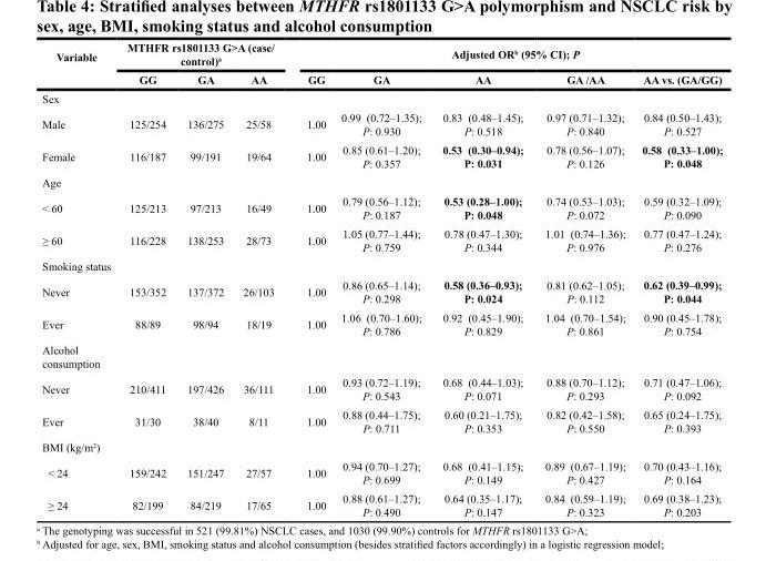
<table><thead><tr><td rowspan="2">Variable</td><td colspan="3">MTHFR rs1801133 G&gt;A (case/ control)<sup>a</sup></td><td colspan="5">Adjusted OR<sup>b</sup> (95% CI); P</td></tr><tr><td>GG</td><td>GA</td><td>AA</td><td>GG</td><td>GA</td><td>AA</td><td>GA /AA</td><td>AA vs. (GA/GG)</td></tr></thead><tbody><tr><td colspan="9">Sex</td></tr><tr><td>Male</td><td>125/254</td><td>136/275</td><td>25/58</td><td>1.00</td><td>0.99 (0.72–1.35); P: 0.930</td><td>0.83 (0.48–1.45); P: 0.518</td><td>0.97 (0.71–1.32); P: 0.840</td><td>0.84 (0.50–1.43); P: 0.527</td></tr><tr><td>Female</td><td>116/187</td><td>99/191</td><td>19/64</td><td>1.00</td><td>0.85 (0.61–1.20); P: 0.357</td><td>0.53 (0.30–0.94); P: 0.031</td><td>0.78 (0.56–1.07); P: 0.126</td><td>0.58 (0.33–1.00); P: 0.048</td></tr><tr><td colspan="9">Age</td></tr><tr><td>&lt; 60</td><td>125/213</td><td>97/213</td><td>16/49</td><td>1.00</td><td>0.79 (0.56–1.12); P: 0.187</td><td>0.53 (0.28–1.00); P: 0.048</td><td>0.74 (0.53–1.03); P: 0.072</td><td>0.59 (0.32–1.09); P: 0.090</td></tr><tr><td>≥ 60</td><td>116/228</td><td>138/253</td><td>28/73</td><td>1.00</td><td>1.05 (0.77–1.44); P: 0.759</td><td>0.78 (0.47–1.30); P: 0.344</td><td>1.01 (0.74–1.36); P: 0.976</td><td>0.77 (0.47–1.24); P: 0.276</td></tr><tr><td colspan="9">Smoking status</td></tr><tr><td>Never</td><td>153/352</td><td>137/372</td><td>26/103</td><td>1.00</td><td>0.86 (0.65–1.14); P: 0.298</td><td>0.58 (0.36–0.93); P: 0.024</td><td>0.81 (0.62–1.05); P: 0.112</td><td>0.62 (0.39–0.99); P: 0.044</td></tr><tr><td>Ever</td><td>88/89</td><td>98/94</td><td>18/19</td><td>1.00</td><td>1.06 (0.70–1.60); P: 0.786</td><td>0.92 (0.45–1.90); P: 0.829</td><td>1.04 (0.70–1.54); P: 0.861</td><td>0.90 (0.45–1.78); P: 0.754</td></tr><tr><td colspan="9">Alcohol consumption</td></tr><tr><td>Never</td><td>210/411</td><td>197/426</td><td>36/111</td><td>1.00</td><td>0.93 (0.72–1.19); P: 0.543</td><td>0.68 (0.44–1.03); P: 0.071</td><td>0.88 (0.70–1.12); P: 0.293</td><td>0.71 (0.47–1.06); P: 0.092</td></tr><tr><td>Ever</td><td>31/30</td><td>38/40</td><td>8/11</td><td>1.00</td><td>0.88 (0.44–1.75); P: 0.711</td><td>0.60 (0.21–1.75); P: 0.353</td><td>0.82 (0.42–1.58); P: 0.550</td><td>0.65 (0.24–1.75); P: 0.393</td></tr><tr><td colspan="9">BMI (kg/m<sup>2</sup>)</td></tr><tr><td>&lt; 24</td><td>159/242</td><td>151/247</td><td>27/57</td><td>1.00</td><td>0.94 (0.70–1.27); P: 0.699</td><td>0.68 (0.41–1.15); P: 0.149</td><td>0.89 (0.67–1.19); P: 0.427</td><td>0.70 (0.43–1.16); P: 0.164</td></tr><tr><td>≥ 24</td><td>82/199</td><td>84/219</td><td>17/65</td><td>1.00</td><td>0.88 (0.61–1.27); P: 0.490</td><td>0.64 (0.35–1.17); P: 0.147</td><td>0.84 (0.59–1.19); P: 0.323</td><td>0.69 (0.38–1.23); P: 0.203</td></tr></tbody></table>